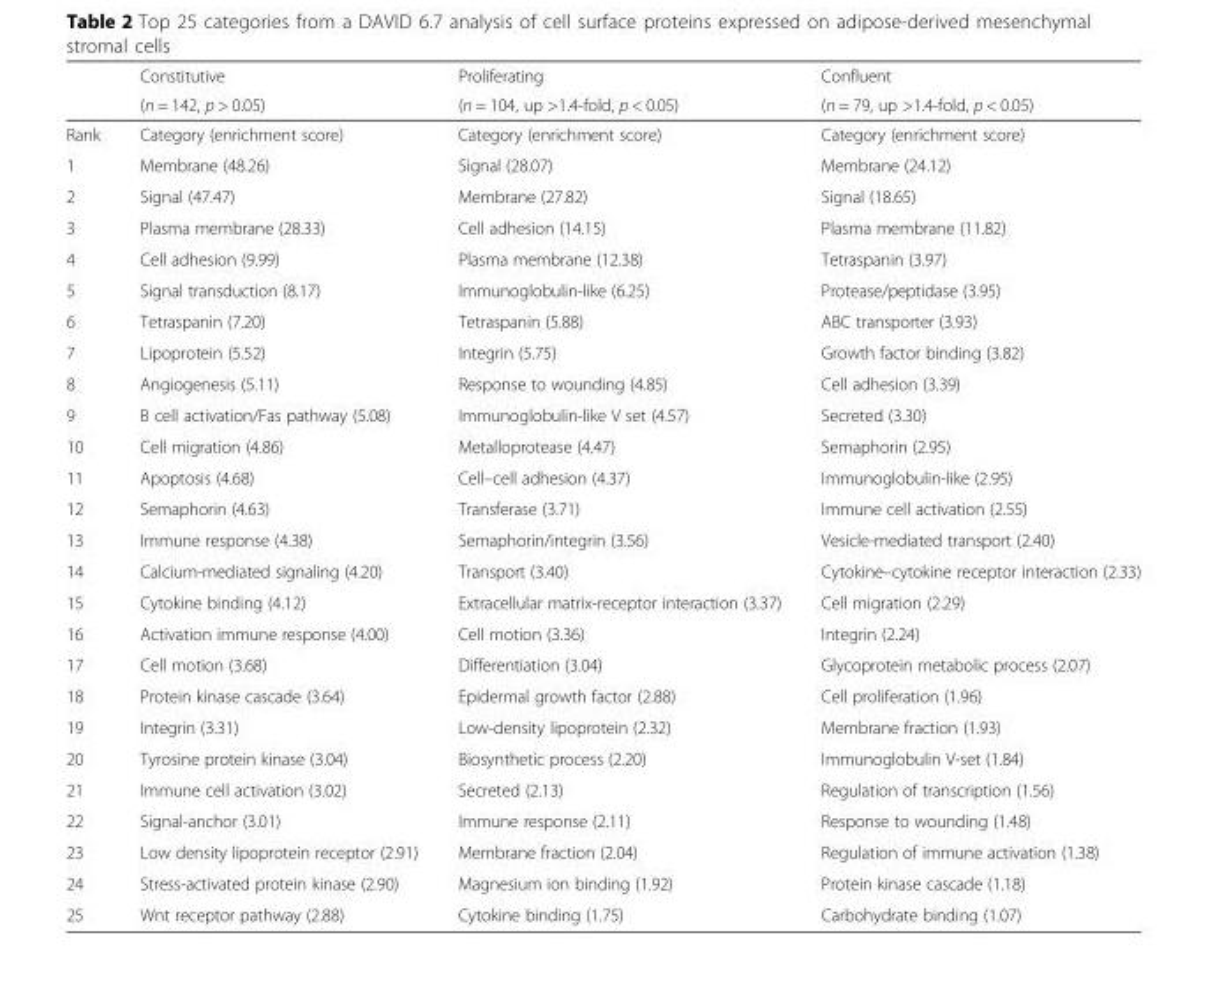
<table><thead><tr><td rowspan="2"></td><td rowspan="2">Constitutive (n = 142, p &gt; 0.05)</td><td rowspan="2">Proliferating (n = 104, up &gt;1.4-fold, p &lt; 0.05)</td><td rowspan="2">Confluent (n = 79, up &gt;1.4-fold, p &lt; 0.05)</td></tr><tr></tr></thead><tbody><tr><td>Rank</td><td>Category (enrichment score)</td><td>Category (enrichment score)</td><td>Category (enrichment score)</td></tr><tr><td>1</td><td>Membrane (48.26)</td><td>Signal (28.07)</td><td>Membrane (24.12)</td></tr><tr><td>2</td><td>Signal (47.47)</td><td>Membrane (27.82)</td><td>Signal (18.65)</td></tr><tr><td>3</td><td>Plasma membrane (28.33)</td><td>Cell adhesion (14.15)</td><td>Plasma membrane (11.82)</td></tr><tr><td>4</td><td>Cell adhesion (9.99)</td><td>Plasma membrane (12.38)</td><td>Tetraspanin (3.97)</td></tr><tr><td>5</td><td>Signal transduction (8.17)</td><td>Immunoglobulin-like (6.25)</td><td>Protease/peptidase (3.95)</td></tr><tr><td>6</td><td>Tetraspanin (7.20)</td><td>Tetraspanin (5.88)</td><td>ABC transporter (3.93)</td></tr><tr><td>7</td><td>Lipoprotein (5.52)</td><td>Integrin (5.75)</td><td>Growth factor binding (3.82)</td></tr><tr><td>8</td><td>Angiogenesis (5.11)</td><td>Response to wounding (4.85)</td><td>Cell adhesion (3.39)</td></tr><tr><td>9</td><td>B cell activation/Fas pathway (5.08)</td><td>Immunoglobulin-like V set (4.57)</td><td>Secreted (3.30)</td></tr><tr><td>10</td><td>Cell migration (4.86)</td><td>Metalloprotease (4.47)</td><td>Semaphorin (2.95)</td></tr><tr><td>11</td><td>Apoptosis (4.68)</td><td>Cell–cell adhesion (4.37)</td><td>Immunoglobulin-like (2.95)</td></tr><tr><td>12</td><td>Semaphorin (4.63)</td><td>Transferase (3.71)</td><td>Immune cell activation (2.55)</td></tr><tr><td>13</td><td>Immune response (4.38)</td><td>Semaphorin/integrin (3.56)</td><td>Vesicle-mediated transport (2.40)</td></tr><tr><td>14</td><td>Calcium-mediated signaling (4.20)</td><td>Transport (3.40)</td><td>Cytokine–cytokine receptor interaction (2.33)</td></tr><tr><td>15</td><td>Cytokine binding (4.12)</td><td>Extracellular matrix-receptor interaction (3.37)</td><td>Cell migration (2.29)</td></tr><tr><td>16</td><td>Activation immune response (4.00)</td><td>Cell motion (3.36)</td><td>Integrin (2.24)</td></tr><tr><td>17</td><td>Cell motion (3.68)</td><td>Differentiation (3.04)</td><td>Glycoprotein metabolic process (2.07)</td></tr><tr><td>18</td><td>Protein kinase cascade (3.64)</td><td>Epidermal growth factor (2.88)</td><td>Cell proliferation (1.96)</td></tr><tr><td>19</td><td>Integrin (3.31)</td><td>Low-density lipoprotein (2.32)</td><td>Membrane fraction (1.93)</td></tr><tr><td>20</td><td>Tyrosine protein kinase (3.04)</td><td>Biosynthetic process (2.20)</td><td>Immunoglobulin V-set (1.84)</td></tr><tr><td>21</td><td>Immune cell activation (3.02)</td><td>Secreted (2.13)</td><td>Regulation of transcription (1.56)</td></tr><tr><td>22</td><td>Signal-anchor (3.01)</td><td>Immune response (2.11)</td><td>Response to wounding (1.48)</td></tr><tr><td>23</td><td>Low density lipoprotein receptor (2.91)</td><td>Membrane fraction (2.04)</td><td>Regulation of immune activation (1.38)</td></tr><tr><td>24</td><td>Stress-activated protein kinase (2.90)</td><td>Magnesium ion binding (1.92)</td><td>Protein kinase cascade (1.18)</td></tr><tr><td>25</td><td>Wnt receptor pathway (2.88)</td><td>Cytokine binding (1.75)</td><td>Carbohydrate binding (1.07)</td></tr></tbody></table>